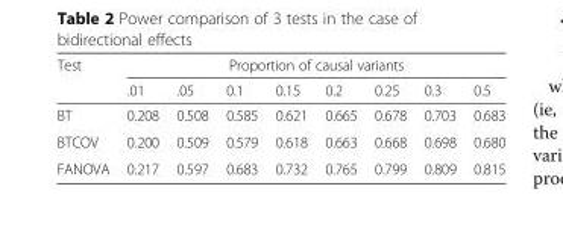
<table><thead><tr><td rowspan="2">Test</td><td colspan="8">Proportion of causal variants</td></tr><tr><td>.01</td><td>.05</td><td>0.1</td><td>0.15</td><td>0.2</td><td>0.25</td><td>0.3</td><td>0.5</td></tr></thead><tbody><tr><td>BT</td><td>0.208</td><td>0.508</td><td>0.585</td><td>0.621</td><td>0.665</td><td>0.678</td><td>0.703</td><td>0.683</td></tr><tr><td>BTCOV</td><td>0.200</td><td>0.509</td><td>0.579</td><td>0.618</td><td>0.663</td><td>0.668</td><td>0.698</td><td>0.680</td></tr><tr><td>FANOVA</td><td>0.217</td><td>0.597</td><td>0.683</td><td>0.732</td><td>0.765</td><td>0.799</td><td>0.809</td><td>0.815</td></tr></tbody></table>